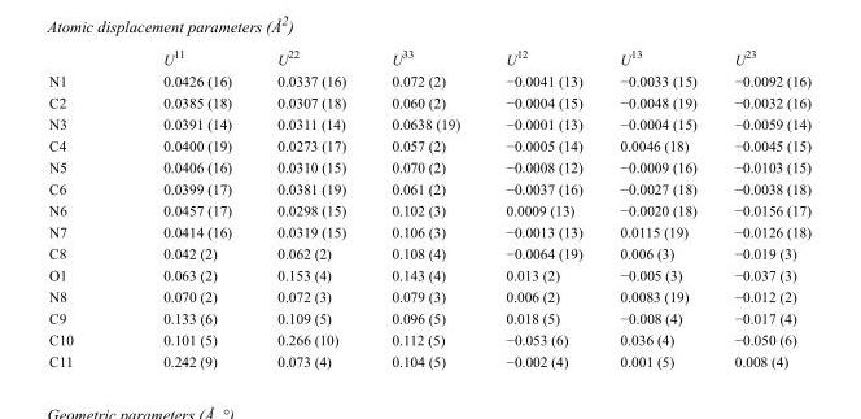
<table><thead><tr><td></td><td>U<sup>11</sup></td><td>U<sup>22</sup></td><td>U<sup>33</sup></td><td>U<sup>12</sup></td><td>U<sup>13</sup></td><td>U<sup>23</sup></td></tr></thead><tbody><tr><td>N1</td><td>0.0426 (16)</td><td>0.0337 (16)</td><td>0.072 (2)</td><td>−0.0041 (13)</td><td>−0.0033 (15)</td><td>−0.0092 (16)</td></tr><tr><td>C2</td><td>0.0385 (18)</td><td>0.0307 (18)</td><td>0.060 (2)</td><td>−0.0004 (15)</td><td>−0.0048 (19)</td><td>−0.0032 (16)</td></tr><tr><td>N3</td><td>0.0391 (14)</td><td>0.0311 (14)</td><td>0.0638 (19)</td><td>−0.0001 (13)</td><td>−0.0004 (15)</td><td>−0.0059 (14)</td></tr><tr><td>C4</td><td>0.0400 (19)</td><td>0.0273 (17)</td><td>0.057 (2)</td><td>−0.0005 (14)</td><td>0.0046 (18)</td><td>−0.0045 (15)</td></tr><tr><td>N5</td><td>0.0406 (16)</td><td>0.0310 (15)</td><td>0.070 (2)</td><td>−0.0008 (12)</td><td>−0.0009 (16)</td><td>−0.0103 (15)</td></tr><tr><td>C6</td><td>0.0399 (17)</td><td>0.0381 (19)</td><td>0.061 (2)</td><td>−0.0037 (16)</td><td>−0.0027 (18)</td><td>−0.0038 (18)</td></tr><tr><td>N6</td><td>0.0457 (17)</td><td>0.0298 (15)</td><td>0.102 (3)</td><td>0.0009 (13)</td><td>−0.0020 (18)</td><td>−0.0156 (17)</td></tr><tr><td>N7</td><td>0.0414 (16)</td><td>0.0319 (15)</td><td>0.106 (3)</td><td>−0.0013 (13)</td><td>0.0115 (19)</td><td>−0.0126 (18)</td></tr><tr><td>C8</td><td>0.042 (2)</td><td>0.062 (2)</td><td>0.108 (4)</td><td>−0.0064 (19)</td><td>0.006 (3)</td><td>−0.019 (3)</td></tr><tr><td>O1</td><td>0.063 (2)</td><td>0.153 (4)</td><td>0.143 (4)</td><td>0.013 (2)</td><td>−0.005 (3)</td><td>−0.037 (3)</td></tr><tr><td>N8</td><td>0.070 (2)</td><td>0.072 (3)</td><td>0.079 (3)</td><td>0.006 (2)</td><td>0.0083 (19)</td><td>−0.012 (2)</td></tr><tr><td>C9</td><td>0.133 (6)</td><td>0.109 (5)</td><td>0.096 (5)</td><td>0.018 (5)</td><td>−0.008 (4)</td><td>−0.017 (4)</td></tr><tr><td>C10</td><td>0.101 (5)</td><td>0.266 (10)</td><td>0.112 (5)</td><td>−0.053 (6)</td><td>0.036 (4)</td><td>−0.050 (6)</td></tr><tr><td>C11</td><td>0.242 (9)</td><td>0.073 (4)</td><td>0.104 (5)</td><td>−0.002 (4)</td><td>0.001 (5)</td><td>0.008 (4)</td></tr></tbody></table>